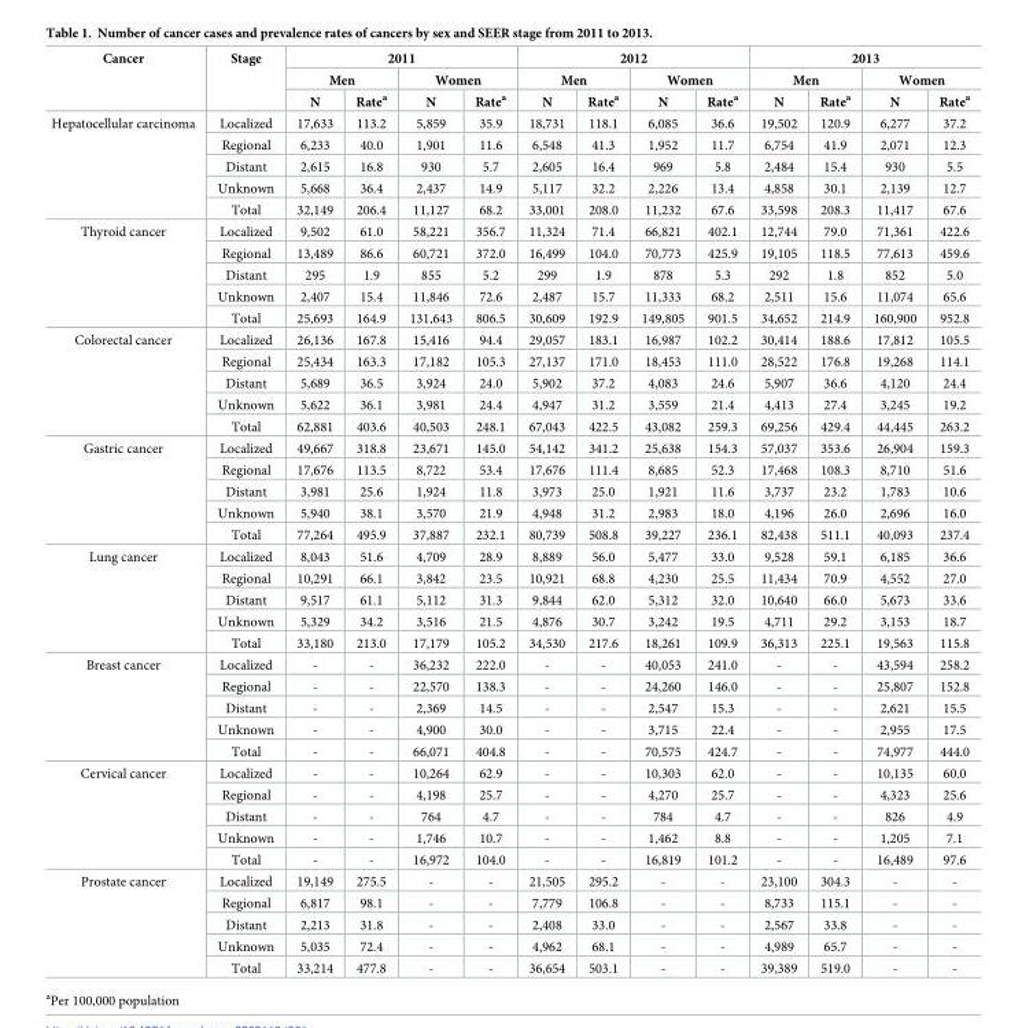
<table><thead><tr><td rowspan="3">Cancer</td><td rowspan="3">Stage</td><td colspan="4">2011</td><td colspan="4">2012</td><td colspan="4">2013</td></tr><tr><td colspan="2">Men</td><td colspan="2">Women</td><td colspan="2">Men</td><td colspan="2">Women</td><td colspan="2">Men</td><td colspan="2">Women</td></tr><tr><td>N</td><td>Rate<sup>a</sup></td><td>N</td><td>Rate<sup>a</sup></td><td>N</td><td>Rate<sup>a</sup></td><td>N</td><td>Rate<sup>a</sup></td><td>N</td><td>Rate<sup>a</sup></td><td>N</td><td>Rate<sup>a</sup></td></tr></thead><tbody><tr><td rowspan="5">Hepatocellular carcinoma</td><td>Localized</td><td>17,633</td><td>113.2</td><td>5,859</td><td>35.9</td><td>18,731</td><td>118.1</td><td>6,085</td><td>36.6</td><td>19,502</td><td>120.9</td><td>6,277</td><td>37.2</td></tr><tr><td>Regional</td><td>6,233</td><td>40.0</td><td>1,901</td><td>11.6</td><td>6,548</td><td>41.3</td><td>1,952</td><td>11.7</td><td>6,754</td><td>41.9</td><td>2,071</td><td>12.3</td></tr><tr><td>Distant</td><td>2,615</td><td>16.8</td><td>930</td><td>5.7</td><td>2,605</td><td>16.4</td><td>969</td><td>5.8</td><td>2,484</td><td>15.4</td><td>930</td><td>5.5</td></tr><tr><td>Unknown</td><td>5,668</td><td>36.4</td><td>2,437</td><td>14.9</td><td>5,117</td><td>32.2</td><td>2,226</td><td>13.4</td><td>4,858</td><td>30.1</td><td>2,139</td><td>12.7</td></tr><tr><td>Total</td><td>32,149</td><td>206.4</td><td>11,127</td><td>68.2</td><td>33,001</td><td>208.0</td><td>11,232</td><td>67.6</td><td>33,598</td><td>208.3</td><td>11,417</td><td>67.6</td></tr><tr><td rowspan="5">Thyroid cancer</td><td>Localized</td><td>9,502</td><td>61.0</td><td>58,221</td><td>356.7</td><td>11,324</td><td>71.4</td><td>66,821</td><td>402.1</td><td>12,744</td><td>79.0</td><td>71,361</td><td>422.6</td></tr><tr><td>Regional</td><td>13,489</td><td>86.6</td><td>60,721</td><td>372.0</td><td>16,499</td><td>104.0</td><td>70,773</td><td>425.9</td><td>19,105</td><td>118.5</td><td>77,613</td><td>459.6</td></tr><tr><td>Distant</td><td>295</td><td>1.9</td><td>855</td><td>5.2</td><td>299</td><td>1.9</td><td>878</td><td>5.3</td><td>292</td><td>1.8</td><td>852</td><td>5.0</td></tr><tr><td>Unknown</td><td>2,407</td><td>15.4</td><td>11,846</td><td>72.6</td><td>2,487</td><td>15.7</td><td>11,333</td><td>68.2</td><td>2,511</td><td>15.6</td><td>11,074</td><td>65.6</td></tr><tr><td>Total</td><td>25,693</td><td>164.9</td><td>131,643</td><td>806.5</td><td>30,609</td><td>192.9</td><td>149,805</td><td>901.5</td><td>34,652</td><td>214.9</td><td>160,900</td><td>952.8</td></tr><tr><td rowspan="5">Colorectal cancer</td><td>Localized</td><td>26,136</td><td>167.8</td><td>15,416</td><td>94.4</td><td>29,057</td><td>183.1</td><td>16,987</td><td>102.2</td><td>30,414</td><td>188.6</td><td>17,812</td><td>105.5</td></tr><tr><td>Regional</td><td>25,434</td><td>163.3</td><td>17,182</td><td>105.3</td><td>27,137</td><td>171.0</td><td>18,453</td><td>111.0</td><td>28,522</td><td>176.8</td><td>19,268</td><td>114.1</td></tr><tr><td>Distant</td><td>5,689</td><td>36.5</td><td>3,924</td><td>24.0</td><td>5,902</td><td>37.2</td><td>4,083</td><td>24.6</td><td>5,907</td><td>36.6</td><td>4,120</td><td>24.4</td></tr><tr><td>Unknown</td><td>5,622</td><td>36.1</td><td>3,981</td><td>24.4</td><td>4,947</td><td>31.2</td><td>3,559</td><td>21.4</td><td>4,413</td><td>27.4</td><td>3,245</td><td>19.2</td></tr><tr><td>Total</td><td>62,881</td><td>403.6</td><td>40,503</td><td>248.1</td><td>67,043</td><td>422.5</td><td>43,082</td><td>259.3</td><td>69,256</td><td>429.4</td><td>44,445</td><td>263.2</td></tr><tr><td rowspan="5">Gastric cancer</td><td>Localized</td><td>49,667</td><td>318.8</td><td>23,671</td><td>145.0</td><td>54,142</td><td>341.2</td><td>25,638</td><td>154.3</td><td>57,037</td><td>353.6</td><td>26,904</td><td>159.3</td></tr><tr><td>Regional</td><td>17,676</td><td>113.5</td><td>8,722</td><td>53.4</td><td>17,676</td><td>111.4</td><td>8,685</td><td>52.3</td><td>17,468</td><td>108.3</td><td>8,710</td><td>51.6</td></tr><tr><td>Distant</td><td>3,981</td><td>25.6</td><td>1,924</td><td>11.8</td><td>3,973</td><td>25.0</td><td>1,921</td><td>11.6</td><td>3,737</td><td>23.2</td><td>1,783</td><td>10.6</td></tr><tr><td>Unknown</td><td>5,940</td><td>38.1</td><td>3,570</td><td>21.9</td><td>4,948</td><td>31.2</td><td>2,983</td><td>18.0</td><td>4,196</td><td>26.0</td><td>2,696</td><td>16.0</td></tr><tr><td>Total</td><td>77,264</td><td>495.9</td><td>37,887</td><td>232.1</td><td>80,739</td><td>508.8</td><td>39,227</td><td>236.1</td><td>82,438</td><td>511.1</td><td>40,093</td><td>237.4</td></tr><tr><td rowspan="5">Lung cancer</td><td>Localized</td><td>8,043</td><td>51.6</td><td>4,709</td><td>28.9</td><td>8,889</td><td>56.0</td><td>5,477</td><td>33.0</td><td>9,528</td><td>59.1</td><td>6,185</td><td>36.6</td></tr><tr><td>Regional</td><td>10,291</td><td>66.1</td><td>3,842</td><td>23.5</td><td>10,921</td><td>68.8</td><td>4,230</td><td>25.5</td><td>11,434</td><td>70.9</td><td>4,552</td><td>27.0</td></tr><tr><td>Distant</td><td>9,517</td><td>61.1</td><td>5,112</td><td>31.3</td><td>9,844</td><td>62.0</td><td>5,312</td><td>32.0</td><td>10,640</td><td>66.0</td><td>5,673</td><td>33.6</td></tr><tr><td>Unknown</td><td>5,329</td><td>34.2</td><td>3,516</td><td>21.5</td><td>4,876</td><td>30.7</td><td>3,242</td><td>19.5</td><td>4,711</td><td>29.2</td><td>3,153</td><td>18.7</td></tr><tr><td>Total</td><td>33,180</td><td>213.0</td><td>17,179</td><td>105.2</td><td>34,530</td><td>217.6</td><td>18,261</td><td>109.9</td><td>36,313</td><td>225.1</td><td>19,563</td><td>115.8</td></tr><tr><td rowspan="5">Breast cancer</td><td>Localized</td><td>-</td><td>-</td><td>36,232</td><td>222.0</td><td>-</td><td>-</td><td>40,053</td><td>241.0</td><td>-</td><td>-</td><td>43,594</td><td>258.2</td></tr><tr><td>Regional</td><td>-</td><td>-</td><td>22,570</td><td>138.3</td><td>-</td><td>-</td><td>24,260</td><td>146.0</td><td>-</td><td>-</td><td>25,807</td><td>152.8</td></tr><tr><td>Distant</td><td>-</td><td>-</td><td>2,369</td><td>14.5</td><td>-</td><td>-</td><td>2,547</td><td>15.3</td><td>-</td><td>-</td><td>2,621</td><td>15.5</td></tr><tr><td>Unknown</td><td>-</td><td>-</td><td>4,900</td><td>30.0</td><td>-</td><td>-</td><td>3,715</td><td>22.4</td><td>-</td><td>-</td><td>2,955</td><td>17.5</td></tr><tr><td>Total</td><td>-</td><td>-</td><td>66,071</td><td>404.8</td><td>-</td><td>-</td><td>70,575</td><td>424.7</td><td>-</td><td>-</td><td>74,977</td><td>444.0</td></tr><tr><td rowspan="5">Cervical cancer</td><td>Localized</td><td>-</td><td>-</td><td>10,264</td><td>62.9</td><td>-</td><td>-</td><td>10,303</td><td>62.0</td><td>-</td><td>-</td><td>10,135</td><td>60.0</td></tr><tr><td>Regional</td><td>-</td><td>-</td><td>4,198</td><td>25.7</td><td>-</td><td>-</td><td>4,270</td><td>25.7</td><td>-</td><td>-</td><td>4,323</td><td>25.6</td></tr><tr><td>Distant</td><td>-</td><td>-</td><td>764</td><td>4.7</td><td>-</td><td>-</td><td>784</td><td>4.7</td><td>-</td><td>-</td><td>826</td><td>4.9</td></tr><tr><td>Unknown</td><td>-</td><td>-</td><td>1,746</td><td>10.7</td><td>-</td><td>-</td><td>1,462</td><td>8.8</td><td>-</td><td>-</td><td>1,205</td><td>7.1</td></tr><tr><td>Total</td><td>-</td><td>-</td><td>16,972</td><td>104.0</td><td>-</td><td>-</td><td>16,819</td><td>101.2</td><td>-</td><td>-</td><td>16,489</td><td>97.6</td></tr><tr><td rowspan="5">Prostate cancer</td><td>Localized</td><td>19,149</td><td>275.5</td><td>-</td><td>-</td><td>21,505</td><td>295.2</td><td>-</td><td>-</td><td>23,100</td><td>304.3</td><td>-</td><td>-</td></tr><tr><td>Regional</td><td>6,817</td><td>98.1</td><td>-</td><td>-</td><td>7,779</td><td>106.8</td><td>-</td><td>-</td><td>8,733</td><td>115.1</td><td>-</td><td>-</td></tr><tr><td>Distant</td><td>2,213</td><td>31.8</td><td>-</td><td>-</td><td>2,408</td><td>33.0</td><td>-</td><td>-</td><td>2,567</td><td>33.8</td><td>-</td><td>-</td></tr><tr><td>Unknown</td><td>5,035</td><td>72.4</td><td>-</td><td>-</td><td>4,962</td><td>68.1</td><td>-</td><td>-</td><td>4,989</td><td>65.7</td><td>-</td><td>-</td></tr><tr><td>Total</td><td>33,214</td><td>477.8</td><td>-</td><td>-</td><td>36,654</td><td>503.1</td><td>-</td><td>-</td><td>39,389</td><td>519.0</td><td>-</td><td>-</td></tr></tbody></table>